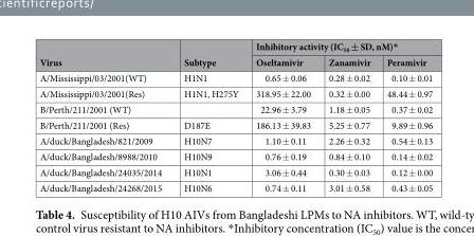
<table><thead><tr><td rowspan="2">Virus</td><td rowspan="2">Subtype</td><td colspan="3">Inhibitory activity (IC<sub>50</sub> ± SD, nM)*</td></tr><tr><td>Oseltamivir</td><td>Zanamivir</td><td>Peramivir</td></tr></thead><tbody><tr><td>A/Mississippi/03/2001(WT)</td><td>H1N1</td><td>0.65 ± 0.06</td><td>0.28 ± 0.02</td><td>0.10 ± 0.01</td></tr><tr><td>A/Mississippi/03/2001(Res)</td><td>H1N1, H275Y</td><td>318.95 ± 22.00</td><td>0.32 ± 0.00</td><td>48.44 ± 0.97</td></tr><tr><td>B/Perth/211/2001 (WT)</td><td></td><td>22.96 ± 3.79</td><td>1.18 ± 0.05</td><td>0.37 ± 0.02</td></tr><tr><td>B/Perth/211/2001 (Res)</td><td>D187E</td><td>186.13 ± 39.83</td><td>5.25 ± 0.77</td><td>9.89 ± 0.96</td></tr><tr><td>A/duck/Bangladesh/821/2009</td><td>H10N7</td><td>1.10 ± 0.11</td><td>2.26 ± 0.32</td><td>0.54 ± 0.13</td></tr><tr><td>A/duck/Bangladesh/8988/2010</td><td>H10N9</td><td>0.76 ± 0.19</td><td>0.84 ± 0.10</td><td>0.14 ± 0.02</td></tr><tr><td>A/duck/Bangladesh/24035/2014</td><td>H10N1</td><td>3.06 ± 0.44</td><td>0.30 ± 0.03</td><td>0.12 ± 0.00</td></tr><tr><td>A/duck/Bangladesh/24268/2015</td><td>H10N6</td><td>0.74 ± 0.11</td><td>3.01 ± 0.58</td><td>0.43 ± 0.05</td></tr></tbody></table>